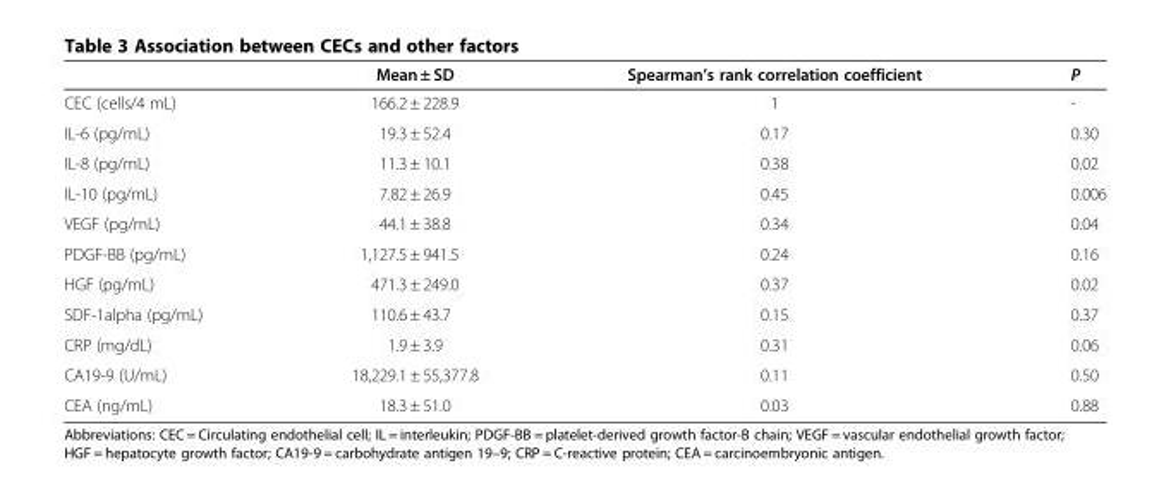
<table><thead><tr><td></td><td>Mean ± SD</td><td>Spearman’s rank correlation coefficient</td><td>P</td></tr></thead><tbody><tr><td>CEC (cells/4 mL)</td><td>166.2 ± 228.9</td><td>1</td><td>-</td></tr><tr><td>IL-6 (pg/mL)</td><td>19.3 ± 52.4</td><td>0.17</td><td>0.30</td></tr><tr><td>IL-8 (pg/mL)</td><td>11.3 ± 10.1</td><td>0.38</td><td>0.02</td></tr><tr><td>IL-10 (pg/mL)</td><td>7.82 ± 26.9</td><td>0.45</td><td>0.006</td></tr><tr><td>VEGF (pg/mL)</td><td>44.1 ± 38.8</td><td>0.34</td><td>0.04</td></tr><tr><td>PDGF-BB (pg/mL)</td><td>1,127.5 ± 941.5</td><td>0.24</td><td>0.16</td></tr><tr><td>HGF (pg/mL)</td><td>471.3 ± 249.0</td><td>0.37</td><td>0.02</td></tr><tr><td>SDF-1alpha (pg/mL)</td><td>110.6 ± 43.7</td><td>0.15</td><td>0.37</td></tr><tr><td>CRP (mg/dL)</td><td>1.9 ± 3.9</td><td>0.31</td><td>0.06</td></tr><tr><td>CA19-9 (U/mL)</td><td>18,229.1 ± 55,377.8</td><td>0.11</td><td>0.50</td></tr><tr><td>CEA (ng/mL)</td><td>18.3 ± 51.0</td><td>0.03</td><td>0.88</td></tr></tbody></table>